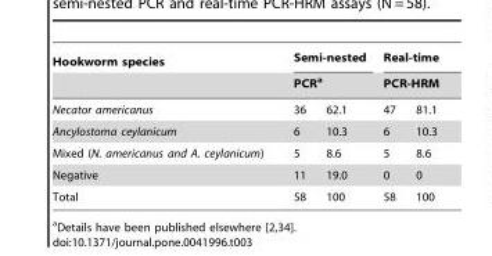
<table><thead><tr><td rowspan="3">Hookworm species Necator americanus</td><td rowspan="2" colspan="2">Semi-nested PCR<sup>a</sup></td><td rowspan="2" colspan="2">Real-time PCR-HRM</td></tr><tr></tr><tr><td>36</td><td>62.1</td><td>47</td><td>81.1</td></tr></thead><tbody><tr><td>Ancylostoma ceylanicum</td><td>6</td><td>10.3</td><td>6</td><td>10.3</td></tr><tr><td>Mixed (N. americanus and A. ceylanicum)</td><td>5</td><td>8.6</td><td>5</td><td>8.6</td></tr><tr><td>Negative</td><td>11</td><td>19.0</td><td>0</td><td>0</td></tr><tr><td>Total</td><td>58</td><td>100</td><td>58</td><td>100</td></tr></tbody></table>